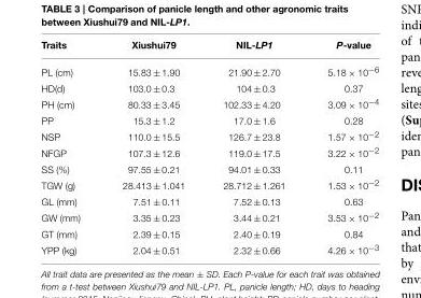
<table><thead><tr><td>Traits</td><td>Xiushui79</td><td>NIL-LP1</td><td>P-value</td></tr></thead><tbody><tr><td>PL (cm)</td><td>15.83 ± 1.90</td><td>21.90 ± 2.70</td><td>5.18 × 10<sup>−6</sup></td></tr><tr><td>HD(d)</td><td>103.0 ± 0.3</td><td>104 ± 0.3</td><td>0.37</td></tr><tr><td>PH (cm)</td><td>80.33 ± 3.45</td><td>102.33 ± 4.20</td><td>3.09 × 10<sup>−4</sup></td></tr><tr><td>PP</td><td>15.3 ± 1.2</td><td>17.0 ± 1.6</td><td>0.28</td></tr><tr><td>NSP</td><td>110.0 ± 15.5</td><td>126.7 ± 23.8</td><td>1.57 × 10<sup>−2</sup></td></tr><tr><td>NFGP</td><td>107.3 ± 12.6</td><td>119.0 ± 17.5</td><td>3.22 × 10<sup>−2</sup></td></tr><tr><td>SS (%)</td><td>97.55 ± 0.21</td><td>94.01 ± 0.33</td><td>0.11</td></tr><tr><td>TGW (g)</td><td>28.413 ± 1.041</td><td>28.712 ± 1.261</td><td>1.53 × 10<sup>−2</sup></td></tr><tr><td>GL (mm)</td><td>7.51 ± 0.11</td><td>7.52 ± 0.13</td><td>0.63</td></tr><tr><td>GW (mm)</td><td>3.35 ± 0.23</td><td>3.44 ± 0.21</td><td>3.53 × 10<sup>−2</sup></td></tr><tr><td>GT (mm)</td><td>2.39 ± 0.15</td><td>2.40 ± 0.19</td><td>0.84</td></tr><tr><td>YPP (kg)</td><td>2.04 ± 0.51</td><td>2.32 ± 0.66</td><td>4.26 × 10<sup>−3</sup></td></tr></tbody></table>